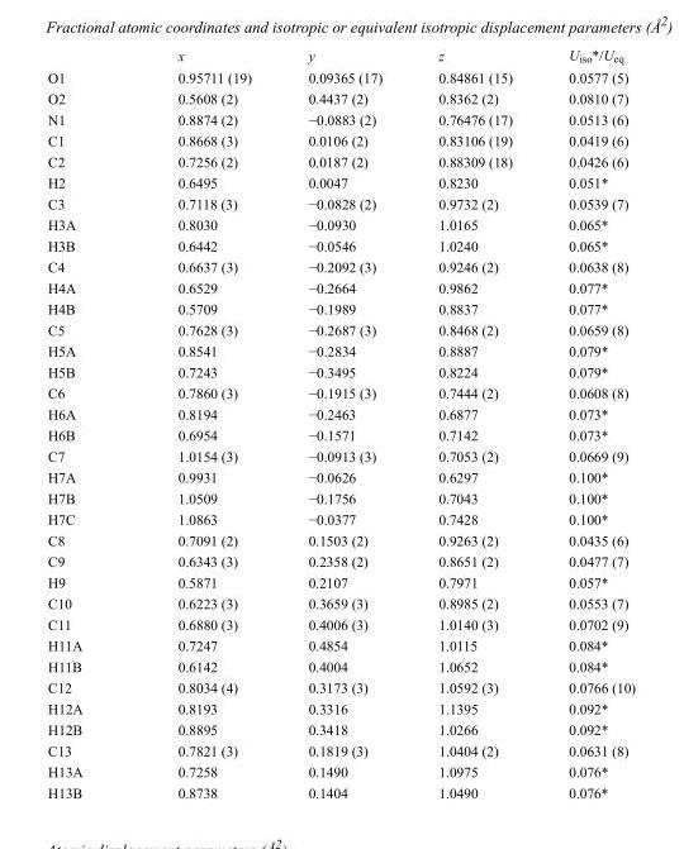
<table><thead><tr><td></td><td>x</td><td>y</td><td>z</td><td>U<sub>iso</sub>*/U<sub>eq</sub></td></tr></thead><tbody><tr><td>O1</td><td>0.95711 (19)</td><td>0.09365 (17)</td><td>0.84861 (15)</td><td>0.0577 (5)</td></tr><tr><td>O2</td><td>0.5608 (2)</td><td>0.4437 (2)</td><td>0.8362 (2)</td><td>0.0810 (7)</td></tr><tr><td>N1</td><td>0.8874 (2)</td><td>−0.0883 (2)</td><td>0.76476 (17)</td><td>0.0513 (6)</td></tr><tr><td>C1</td><td>0.8668 (3)</td><td>0.0106 (2)</td><td>0.83106 (19)</td><td>0.0419 (6)</td></tr><tr><td>C2</td><td>0.7256 (2)</td><td>0.0187 (2)</td><td>0.88309 (18)</td><td>0.0426 (6)</td></tr><tr><td>H2</td><td>0.6495</td><td>0.0047</td><td>0.8230</td><td>0.051*</td></tr><tr><td>C3</td><td>0.7118 (3)</td><td>−0.0828 (2)</td><td>0.9732 (2)</td><td>0.0539 (7)</td></tr><tr><td>H3A</td><td>0.8030</td><td>−0.0930</td><td>1.0165</td><td>0.065*</td></tr><tr><td>H3B</td><td>0.6442</td><td>−0.0546</td><td>1.0240</td><td>0.065*</td></tr><tr><td>C4</td><td>0.6637 (3)</td><td>−0.2092 (3)</td><td>0.9246 (2)</td><td>0.0638 (8)</td></tr><tr><td>H4A</td><td>0.6529</td><td>−0.2664</td><td>0.9862</td><td>0.077*</td></tr><tr><td>H4B</td><td>0.5709</td><td>−0.1989</td><td>0.8837</td><td>0.077*</td></tr><tr><td>C5</td><td>0.7628 (3)</td><td>−0.2687 (3)</td><td>0.8468 (2)</td><td>0.0659 (8)</td></tr><tr><td>H5A</td><td>0.8541</td><td>−0.2834</td><td>0.8887</td><td>0.079*</td></tr><tr><td>H5B</td><td>0.7243</td><td>−0.3495</td><td>0.8224</td><td>0.079*</td></tr><tr><td>C6</td><td>0.7860 (3)</td><td>−0.1915 (3)</td><td>0.7444 (2)</td><td>0.0608 (8)</td></tr><tr><td>H6A</td><td>0.8194</td><td>−0.2463</td><td>0.6877</td><td>0.073*</td></tr><tr><td>H6B</td><td>0.6954</td><td>−0.1571</td><td>0.7142</td><td>0.073*</td></tr><tr><td>C7</td><td>1.0154 (3)</td><td>−0.0913 (3)</td><td>0.7053 (2)</td><td>0.0669 (9)</td></tr><tr><td>H7A</td><td>0.9931</td><td>−0.0626</td><td>0.6297</td><td>0.100*</td></tr><tr><td>H7B</td><td>1.0509</td><td>−0.1756</td><td>0.7043</td><td>0.100*</td></tr><tr><td>H7C</td><td>1.0863</td><td>−0.0377</td><td>0.7428</td><td>0.100*</td></tr><tr><td>C8</td><td>0.7091 (2)</td><td>0.1503 (2)</td><td>0.9263 (2)</td><td>0.0435 (6)</td></tr><tr><td>C9</td><td>0.6343 (3)</td><td>0.2358 (2)</td><td>0.8651 (2)</td><td>0.0477 (7)</td></tr><tr><td>H9</td><td>0.5871</td><td>0.2107</td><td>0.7971</td><td>0.057*</td></tr><tr><td>C10</td><td>0.6223 (3)</td><td>0.3659 (3)</td><td>0.8985 (2)</td><td>0.0553 (7)</td></tr><tr><td>C11</td><td>0.6880 (3)</td><td>0.4006 (3)</td><td>1.0140 (3)</td><td>0.0702 (9)</td></tr><tr><td>H11A</td><td>0.7247</td><td>0.4854</td><td>1.0115</td><td>0.084*</td></tr><tr><td>H11B</td><td>0.6142</td><td>0.4004</td><td>1.0652</td><td>0.084*</td></tr><tr><td>C12</td><td>0.8034 (4)</td><td>0.3173 (3)</td><td>1.0592 (3)</td><td>0.0766 (10)</td></tr><tr><td>H12A</td><td>0.8193</td><td>0.3316</td><td>1.1395</td><td>0.092*</td></tr><tr><td>H12B</td><td>0.8895</td><td>0.3418</td><td>1.0266</td><td>0.092*</td></tr><tr><td>C13</td><td>0.7821 (3)</td><td>0.1819 (3)</td><td>1.0404 (2)</td><td>0.0631 (8)</td></tr><tr><td>H13A</td><td>0.7258</td><td>0.1490</td><td>1.0975</td><td>0.076*</td></tr><tr><td>H13B</td><td>0.8738</td><td>0.1404</td><td>1.0490</td><td>0.076*</td></tr></tbody></table>